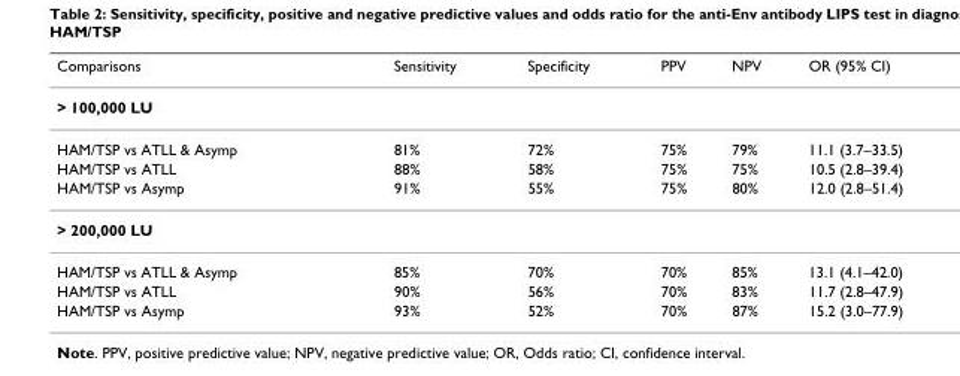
<table><thead><tr><td>Comparisons</td><td>Sensitivity</td><td>Specificity</td><td>PPV</td><td>NPV</td><td>OR (95% CI)</td></tr></thead><tbody><tr><td colspan="6">&gt; 100,000 LU</td></tr><tr><td>HAM/TSP vs ATLL &amp; Asymp</td><td>81%</td><td>72%</td><td>75%</td><td>79%</td><td>11.1 (3.7–33.5)</td></tr><tr><td>HAM/TSP vs ATLL</td><td>88%</td><td>58%</td><td>75%</td><td>75%</td><td>10.5 (2.8–39.4)</td></tr><tr><td>HAM/TSP vs Asymp</td><td>91%</td><td>55%</td><td>75%</td><td>80%</td><td>12.0 (2.8–51.4)</td></tr><tr><td colspan="6">&gt; 200,000 LU</td></tr><tr><td>HAM/TSP vs ATLL &amp; Asymp</td><td>85%</td><td>70%</td><td>70%</td><td>85%</td><td>13.1 (4.1–42.0)</td></tr><tr><td>HAM/TSP vs ATLL</td><td>90%</td><td>56%</td><td>70%</td><td>83%</td><td>11.7 (2.8–47.9)</td></tr><tr><td>HAM/TSP vs Asymp</td><td>93%</td><td>52%</td><td>70%</td><td>87%</td><td>15.2 (3.0–77.9)</td></tr></tbody></table>